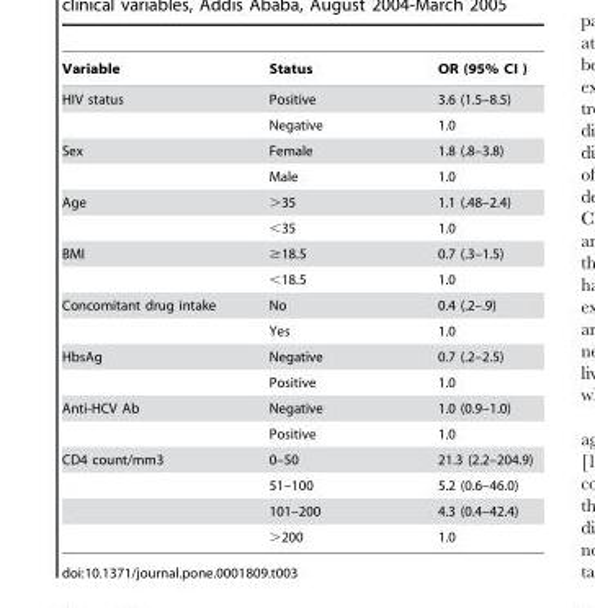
<table><thead><tr><td>Variable</td><td>Status</td><td>OR (95% CI )</td></tr></thead><tbody><tr><td rowspan="2">HIV status</td><td>Positive</td><td>3.6 (1.5–8.5)</td></tr><tr><td>Negative</td><td>1.0</td></tr><tr><td rowspan="2">Sex</td><td>Female</td><td>1.8 (.8–3.8)</td></tr><tr><td>Male</td><td>1.0</td></tr><tr><td rowspan="2">Age</td><td>&gt;35</td><td>1.1 (.48–2.4)</td></tr><tr><td>&lt;35</td><td>1.0</td></tr><tr><td rowspan="2">BMI</td><td>≥18.5</td><td>0.7 (.3–1.5)</td></tr><tr><td>&lt;18.5</td><td>1.0</td></tr><tr><td rowspan="2">Concomitant drug intake</td><td>No</td><td>0.4 (.2–.9)</td></tr><tr><td>Yes</td><td>1.0</td></tr><tr><td rowspan="2">HbsAg</td><td>Negative</td><td>0.7 (.2–2.5)</td></tr><tr><td>Positive</td><td>1.0</td></tr><tr><td rowspan="2">Anti-HCV Ab</td><td>Negative</td><td>1.0 (0.9–1.0)</td></tr><tr><td>Positive</td><td>1.0</td></tr><tr><td rowspan="4">CD4 count/mm3</td><td>0–50</td><td>21.3 (2.2–204.9)</td></tr><tr><td>51–100</td><td>5.2 (0.6–46.0)</td></tr><tr><td>101–200</td><td>4.3 (0.4–42.4)</td></tr><tr><td>&gt;200</td><td>1.0</td></tr></tbody></table>